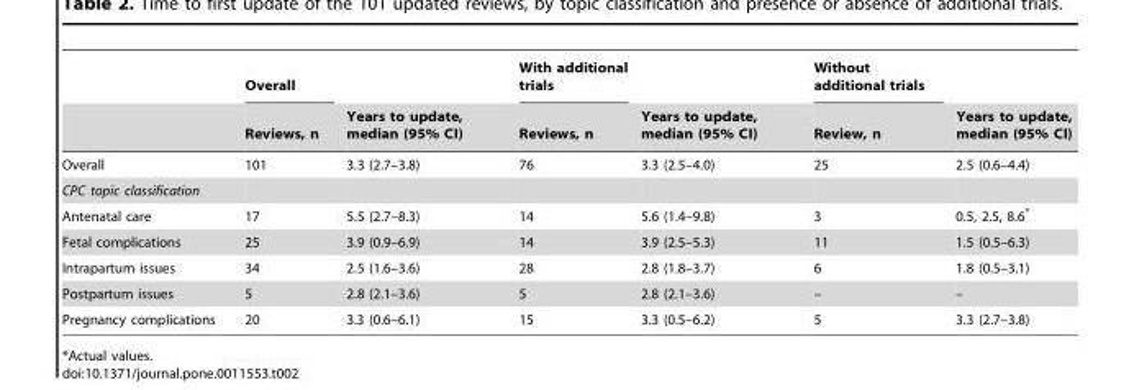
<table><thead><tr><td rowspan="2"></td><td rowspan="2">Overall Reviews, n</td><td rowspan="2">Years to update, median (95% CI)</td><td rowspan="2">With additional trials Reviews, n</td><td rowspan="2">Years to update, median (95% CI)</td><td rowspan="2">Without additional trials Review, n</td><td rowspan="2">Years to update, median (95% CI)</td></tr><tr></tr></thead><tbody><tr><td>Overall</td><td>101</td><td>3.3 (2.7–3.8)</td><td>76</td><td>3.3 (2.5–4.0)</td><td>25</td><td>2.5 (0.6–4.4)</td></tr><tr><td colspan="7">CPC topic classification</td></tr><tr><td>Antenatal care</td><td>17</td><td>5.5 (2.7–8.3)</td><td>14</td><td>5.6 (1.4–9.8)</td><td>3</td><td>0.5, 2.5, 8.6*</td></tr><tr><td>Fetal complications</td><td>25</td><td>3.9 (0.9–6.9)</td><td>14</td><td>3.9 (2.5–5.3)</td><td>11</td><td>1.5 (0.5–6.3)</td></tr><tr><td>Intrapartum issues</td><td>34</td><td>2.5 (1.6–3.6)</td><td>28</td><td>2.8 (1.8–3.7)</td><td>6</td><td>1.8 (0.5–3.1)</td></tr><tr><td>Postpartum issues</td><td>5</td><td>2.8 (2.1–3.6)</td><td>5</td><td>2.8 (2.1–3.6)</td><td>–</td><td>–</td></tr><tr><td>Pregnancy complications</td><td>20</td><td>3.3 (0.6–6.1)</td><td>15</td><td>3.3 (0.5–6.2)</td><td>5</td><td>3.3 (2.7–3.8)</td></tr></tbody></table>